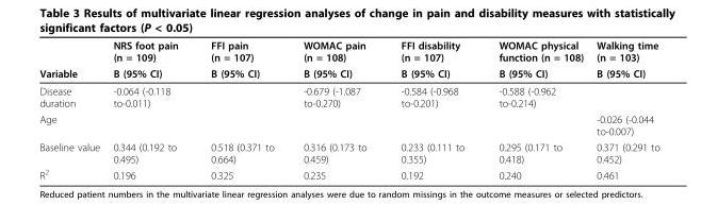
<table><thead><tr><td rowspan="2">Variable</td><td rowspan="2">NRS foot pain (n = 109) B (95% CI)</td><td rowspan="2">FFI pain (n = 107) B (95% CI)</td><td rowspan="2">WOMAC pain (n = 108) B (95% CI)</td><td rowspan="2">FFI disability (n = 107) B (95% CI)</td><td rowspan="2">WOMAC physical function (n = 108) B (95% CI)</td><td rowspan="2">Walking time (n = 103) B (95% CI)</td></tr><tr></tr></thead><tbody><tr><td>Disease duration</td><td>-0.064 (-0.118 to-0.011)</td><td></td><td>-0.679 (-1.087 to-0.270)</td><td>-0.584 (-0.968 to-0.201)</td><td>-0.588 (-0.962 to-0.214)</td><td></td></tr><tr><td>Age</td><td></td><td></td><td></td><td></td><td></td><td>-0.026 (-0.044 to-0.007)</td></tr><tr><td>Baseline value</td><td>0.344 (0.192 to 0.495)</td><td>0.518 (0.371 to 0.664)</td><td>0.316 (0.173 to 0.459)</td><td>0.233 (0.111 to 0.355)</td><td>0.295 (0.171 to 0.418)</td><td>0.371 (0.291 to 0.452)</td></tr><tr><td>R<sup>2</sup></td><td>0.196</td><td>0.325</td><td>0.235</td><td>0.192</td><td>0.240</td><td>0.461</td></tr></tbody></table>